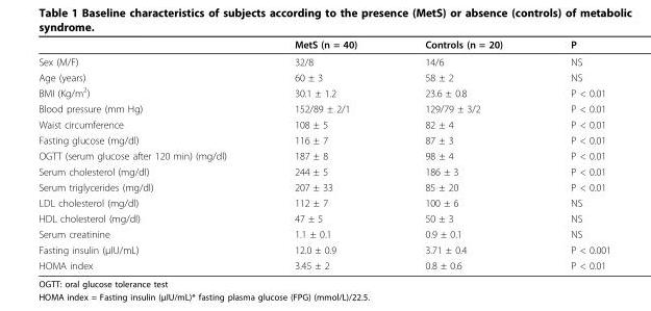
<table><thead><tr><td></td><td>MetS (n = 40)</td><td>Controls (n = 20)</td><td>P</td></tr></thead><tbody><tr><td>Sex (M/F)</td><td>32/8</td><td>14/6</td><td>NS</td></tr><tr><td>Age (years)</td><td>60 ± 3</td><td>58 ± 2</td><td>NS</td></tr><tr><td>BMI (Kg/m<sup>2</sup>)</td><td>30.1 ± 1.2</td><td>23.6 ± 0.8</td><td>P &lt; 0.01</td></tr><tr><td>Blood pressure (mm Hg)</td><td>152/89 ± 2/1</td><td>129/79 ± 3/2</td><td>P &lt; 0.01</td></tr><tr><td>Waist circumference</td><td>108 ± 5</td><td>82 ± 4</td><td>P &lt; 0.01</td></tr><tr><td>Fasting glucose (mg/dl)</td><td>116 ± 7</td><td>87 ± 3</td><td>P &lt; 0.01</td></tr><tr><td>OGTT (serum glucose after 120 min) (mg/dl)</td><td>187 ± 8</td><td>98 ± 4</td><td>P &lt; 0.01</td></tr><tr><td>Serum cholesterol (mg/dl)</td><td>244 ± 5</td><td>186 ± 3</td><td>P &lt; 0.01</td></tr><tr><td>Serum triglycerides (mg/dl)</td><td>207 ± 33</td><td>85 ± 20</td><td>P &lt; 0.01</td></tr><tr><td>LDL cholesterol (mg/dl)</td><td>112 ± 7</td><td>100 ± 6</td><td>NS</td></tr><tr><td>HDL cholesterol (mg/dl)</td><td>47 ± 5</td><td>50 ± 3</td><td>NS</td></tr><tr><td>Serum creatinine</td><td>1.1 ± 0.1</td><td>0.9 ± 0.1</td><td>NS</td></tr><tr><td>Fasting insulin (μIU/mL)</td><td>12.0 ± 0.9</td><td>3.71 ± 0.4</td><td>P &lt; 0.001</td></tr><tr><td>HOMA index</td><td>3.45 ± 2</td><td>0.8 ± 0.6</td><td>P &lt; 0.01</td></tr></tbody></table>